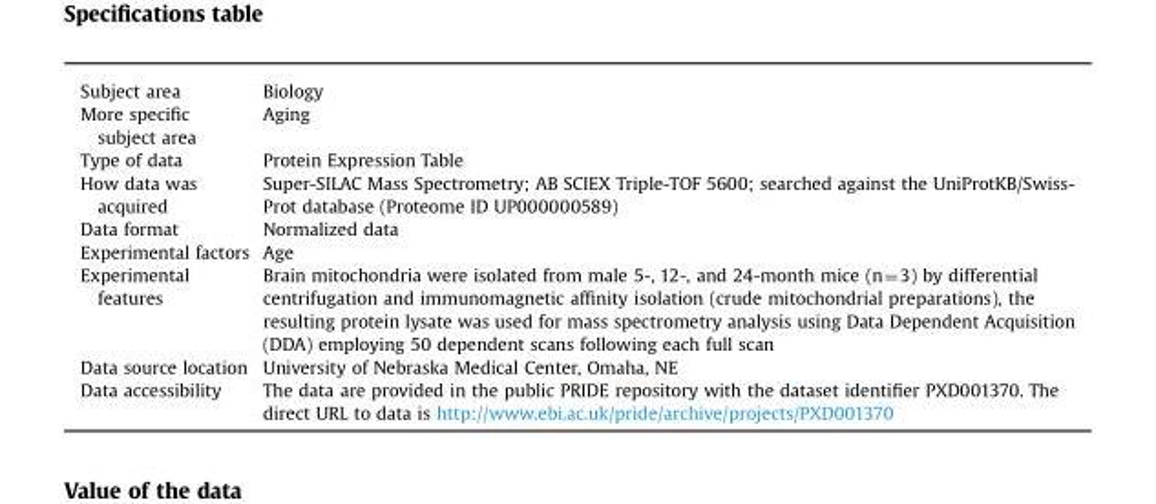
<table><tbody><tr><td>Subject area</td><td>Biology</td></tr><tr><td>More specific subject area</td><td>Aging</td></tr><tr><td>Type of data</td><td>Protein Expression Table</td></tr><tr><td>How data was acquired</td><td>Super-SILAC Mass Spectrometry; AB SCIEX Triple-TOF 5600; searched against the UniProtKB/Swiss- Prot database (Proteome ID UP000000589)</td></tr><tr><td>Data format</td><td>Normalized data</td></tr><tr><td>Experimental factors</td><td>Age</td></tr><tr><td>Experimental features</td><td>Brain mitochondria were isolated from male 5-, 12-, and 24-month mice (n=3) by differential centrifugation and immunomagnetic affinity isolation (crude mitochondrial preparations), the resulting protein lysate was used for mass spectrometry analysis using Data Dependent Acquisition (DDA) employing 50 dependent scans following each full scan</td></tr><tr><td>Data source location</td><td>University of Nebraska Medical Center, Omaha, NE</td></tr><tr><td>Data accessibility</td><td>The data are provided in the public PRIDE repository with the dataset identifier PXD001370. The direct URL to data is http://www.ebi.ac.uk/pride/archive/projects/PXD001370</td></tr></tbody></table>